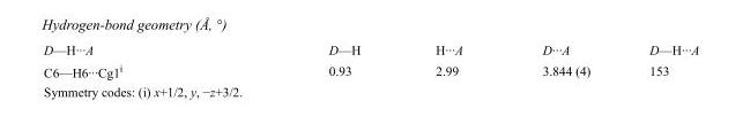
<table><tbody><tr><td>D—H···A</td><td>D—H</td><td>H···A</td><td>D···A</td><td>D—H···A</td></tr><tr><td>C6—H6···Cg1<sup>i</sup></td><td>0.93</td><td>2.99</td><td>3.844 (4)</td><td>153</td></tr></tbody></table>